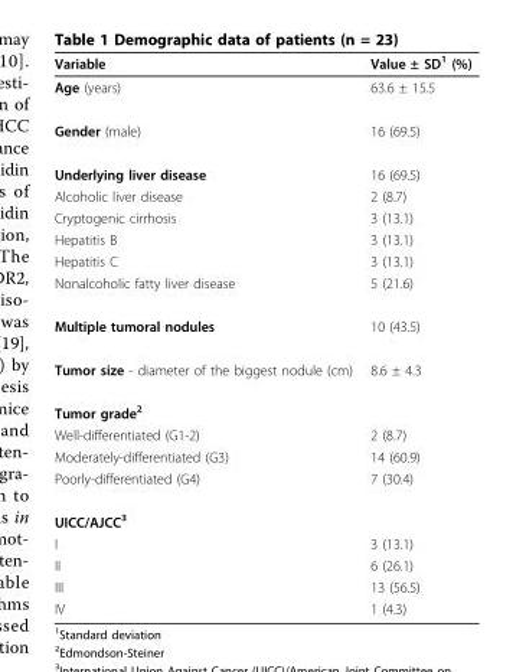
<table><thead><tr><td>Variable</td><td>Value ± SD<sup>1</sup> (%)</td></tr></thead><tbody><tr><td>Age (years)</td><td>63.6 ± 15.5</td></tr><tr><td>Gender (male)</td><td>16 (69.5)</td></tr><tr><td>Underlying liver disease</td><td>16 (69.5)</td></tr><tr><td>Alcoholic liver disease</td><td>2 (8.7)</td></tr><tr><td>Cryptogenic cirrhosis</td><td>3 (13.1)</td></tr><tr><td>Hepatitis B</td><td>3 (13.1)</td></tr><tr><td>Hepatitis C</td><td>3 (13.1)</td></tr><tr><td>Nonalcoholic fatty liver disease</td><td>5 (21.6)</td></tr><tr><td>Multiple tumoral nodules</td><td>10 (43.5)</td></tr><tr><td>Tumor size - diameter of the biggest nodule (cm)</td><td>8.6 ± 4.3</td></tr><tr><td colspan="2">Tumor grade<sup>2</sup></td></tr><tr><td>Well-differentiated (G1-2)</td><td>2 (8.7)</td></tr><tr><td>Moderately-differentiated (G3)</td><td>14 (60.9)</td></tr><tr><td>Poorly-differentiated (G4)</td><td>7 (30.4)</td></tr><tr><td colspan="2">UICC/AJCC<sup>3</sup></td></tr><tr><td>I</td><td>3 (13.1)</td></tr><tr><td>II</td><td>6 (26.1)</td></tr><tr><td>III</td><td>13 (56.5)</td></tr><tr><td>IV</td><td>1 (4.3)</td></tr></tbody></table>